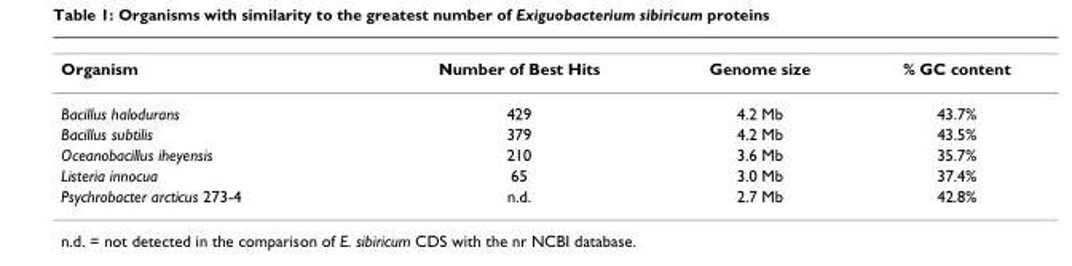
<table><tbody><tr><td>Organism</td><td>Number of Best Hits</td><td>Genome size</td><td>% GC content</td></tr><tr><td>Bacillus halodurans</td><td>429</td><td>4.2 Mb</td><td>43.7%</td></tr><tr><td>Bacillus subtilis</td><td>379</td><td>4.2 Mb</td><td>43.5%</td></tr><tr><td>Oceanobacillus iheyensis</td><td>210</td><td>3.6 Mb</td><td>35.7%</td></tr><tr><td>Listeria innocua</td><td>65</td><td>3.0 Mb</td><td>37.4%</td></tr><tr><td>Psychrobacter arcticus 273-4</td><td>n.d.</td><td>2.7 Mb</td><td>42.8%</td></tr></tbody></table>